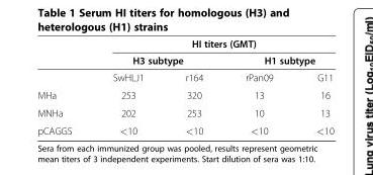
<table><thead><tr><td rowspan="3"></td><td colspan="4">HI titers (GMT)</td></tr><tr><td colspan="2">H3 subtype</td><td colspan="2">H1 subtype</td></tr><tr><td>SwHLJ1</td><td>r164</td><td>rPan09</td><td>G11</td></tr></thead><tbody><tr><td>MHa</td><td>253</td><td>320</td><td>13</td><td>16</td></tr><tr><td>MNHa</td><td>202</td><td>253</td><td>10</td><td>13</td></tr><tr><td>pCAGGS</td><td>&lt;10</td><td>&lt;10</td><td>&lt;10</td><td>&lt;10</td></tr></tbody></table>